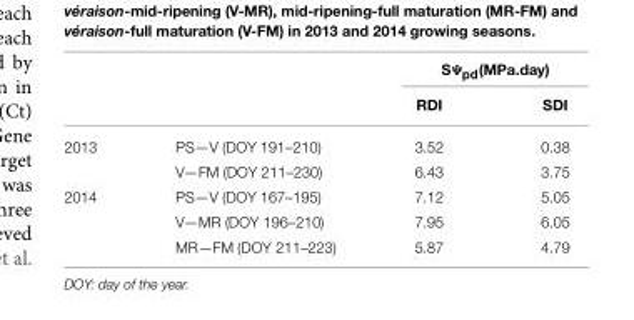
<table><thead><tr><td rowspan="2"></td><td rowspan="2"></td><td colspan="2">SΨ<sub>pd</sub>(MPa.day)</td></tr><tr><td>RDI</td><td>SDI</td></tr></thead><tbody><tr><td rowspan="2">2013</td><td>PS—V (DOY 191–210)</td><td>3.52</td><td>0.38</td></tr><tr><td>V—FM (DOY 211–230)</td><td>6.43</td><td>3.75</td></tr><tr><td rowspan="3">2014</td><td>PS—V (DOY 167–195)</td><td>7.12</td><td>5.05</td></tr><tr><td>V—MR (DOY 196–210)</td><td>7.95</td><td>6.05</td></tr><tr><td>MR—FM (DOY 211–223)</td><td>5.87</td><td>4.79</td></tr></tbody></table>